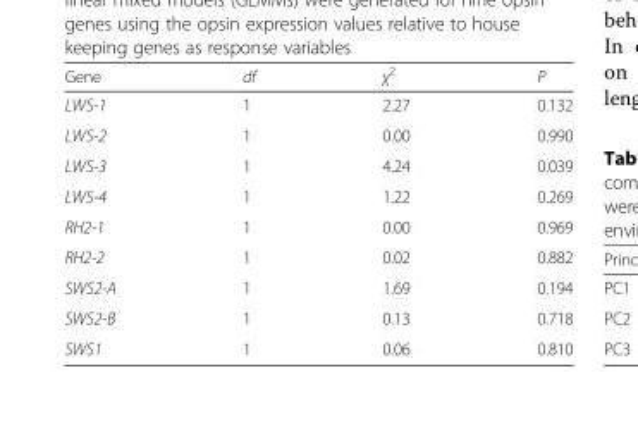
<table><thead><tr><td>Gene</td><td>df</td><td>χ<sup>2</sup></td><td>P</td></tr></thead><tbody><tr><td>LWS-1</td><td>1</td><td>2.27</td><td>0.132</td></tr><tr><td>LWS-2</td><td>1</td><td>0.00</td><td>0.990</td></tr><tr><td>LWS-3</td><td>1</td><td>4.24</td><td>0.039</td></tr><tr><td>LWS-4</td><td>1</td><td>1.22</td><td>0.269</td></tr><tr><td>RH2-1</td><td>1</td><td>0.00</td><td>0.969</td></tr><tr><td>RH2-2</td><td>1</td><td>0.02</td><td>0.882</td></tr><tr><td>SWS2-A</td><td>1</td><td>1.69</td><td>0.194</td></tr><tr><td>SWS2-B</td><td>1</td><td>0.13</td><td>0.718</td></tr><tr><td>SWS1</td><td>1</td><td>0.06</td><td>0.810</td></tr></tbody></table>